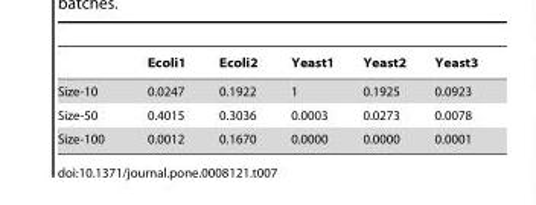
<table><thead><tr><td></td><td>Ecoli1</td><td>Ecoli2</td><td>Yeast1</td><td>Yeast2</td><td>Yeast3</td></tr></thead><tbody><tr><td>Size-10</td><td>0.0247</td><td>0.1922</td><td>1</td><td>0.1925</td><td>0.0923</td></tr><tr><td>Size-50</td><td>0.4015</td><td>0.3036</td><td>0.0003</td><td>0.0273</td><td>0.0078</td></tr><tr><td>Size-100</td><td>0.0012</td><td>0.1670</td><td>0.0000</td><td>0.0000</td><td>0.0001</td></tr></tbody></table>